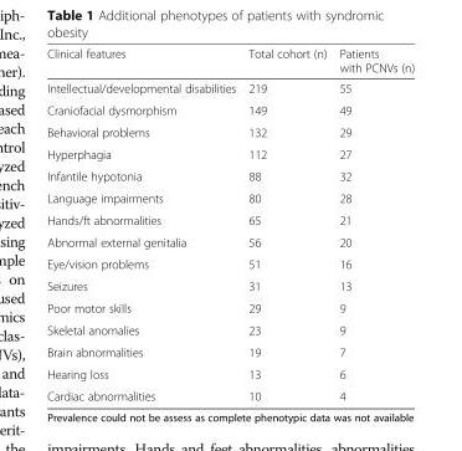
<table><thead><tr><td>Clinical features</td><td>Total cohort (n)</td><td>Patients with PCNVs (n)</td></tr></thead><tbody><tr><td>Intellectual/developmental disabilities</td><td>219</td><td>55</td></tr><tr><td>Craniofacial dysmorphism</td><td>149</td><td>49</td></tr><tr><td>Behavioral problems</td><td>132</td><td>29</td></tr><tr><td>Hyperphagia</td><td>112</td><td>27</td></tr><tr><td>Infantile hypotonia</td><td>88</td><td>32</td></tr><tr><td>Language impairments</td><td>80</td><td>28</td></tr><tr><td>Hands/ft abnormalities</td><td>65</td><td>21</td></tr><tr><td>Abnormal external genitalia</td><td>56</td><td>20</td></tr><tr><td>Eye/vision problems</td><td>51</td><td>16</td></tr><tr><td>Seizures</td><td>31</td><td>13</td></tr><tr><td>Poor motor skills</td><td>29</td><td>9</td></tr><tr><td>Skeletal anomalies</td><td>23</td><td>9</td></tr><tr><td>Brain abnormalities</td><td>19</td><td>7</td></tr><tr><td>Hearing loss</td><td>13</td><td>6</td></tr><tr><td>Cardiac abnormalities</td><td>10</td><td>4</td></tr></tbody></table>